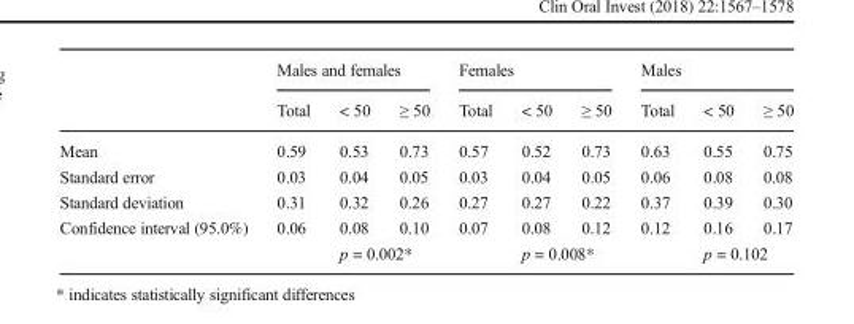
<table><thead><tr><td rowspan="2"></td><td colspan="3">Males and females</td><td colspan="3">Females</td><td colspan="3">Males</td></tr><tr><td>Total</td><td>&lt; 50</td><td>≥ 50</td><td>Total</td><td>&lt; 50</td><td>≥ 50</td><td>Total</td><td>&lt; 50</td><td>≥ 50</td></tr></thead><tbody><tr><td>Mean</td><td>0.59</td><td>0.53</td><td>0.73</td><td>0.57</td><td>0.52</td><td>0.73</td><td>0.63</td><td>0.55</td><td>0.75</td></tr><tr><td>Standard error</td><td>0.03</td><td>0.04</td><td>0.05</td><td>0.03</td><td>0.04</td><td>0.05</td><td>0.06</td><td>0.08</td><td>0.08</td></tr><tr><td>Standard deviation</td><td>0.31</td><td>0.32</td><td>0.26</td><td>0.27</td><td>0.27</td><td>0.22</td><td>0.37</td><td>0.39</td><td>0.30</td></tr><tr><td rowspan="2">Confidence interval (95.0%)</td><td>0.06</td><td>0.08</td><td>0.10</td><td>0.07</td><td>0.08</td><td>0.12</td><td>0.12</td><td>0.16</td><td>0.17</td></tr><tr><td></td><td colspan="2">p = 0.002*</td><td></td><td colspan="2">p = 0.008*</td><td></td><td colspan="2">p = 0.102</td></tr></tbody></table>